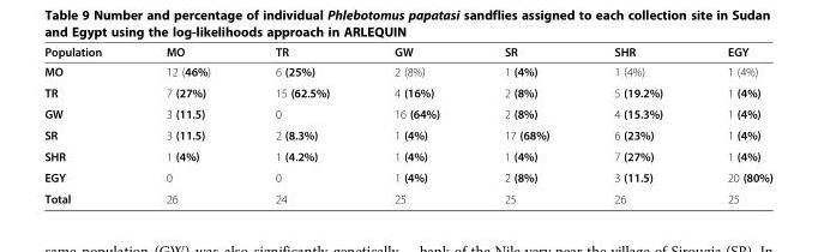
<table><thead><tr><td>Population</td><td>MO</td><td>TR</td><td>GW</td><td>SR</td><td>SHR</td><td>EGY</td></tr></thead><tbody><tr><td>MO</td><td>12 (46%)</td><td>6 (25%)</td><td>2 (8%)</td><td>1 (4%)</td><td>1 (4%)</td><td>1 (4%)</td></tr><tr><td>TR</td><td>7 (27%)</td><td>15 (62.5%)</td><td>4 (16%)</td><td>2 (8%)</td><td>5 (19.2%)</td><td>1 (4%)</td></tr><tr><td>GW</td><td>3 (11.5)</td><td>0</td><td>16 (64%)</td><td>2 (8%)</td><td>4 (15.3%)</td><td>1 (4%)</td></tr><tr><td>SR</td><td>3 (11.5)</td><td>2 (8.3%)</td><td>1 (4%)</td><td>17 (68%)</td><td>6 (23%)</td><td>1 (4%)</td></tr><tr><td>SHR</td><td>1 (4%)</td><td>1 (4.2%)</td><td>1 (4%)</td><td>1 (4%)</td><td>7 (27%)</td><td>1 (4%)</td></tr><tr><td>EGY</td><td>0</td><td>0</td><td>1 (4%)</td><td>2 (8%)</td><td>3 (11.5)</td><td>20 (80%)</td></tr><tr><td>Total</td><td>26</td><td>24</td><td>25</td><td>25</td><td>26</td><td>25</td></tr></tbody></table>